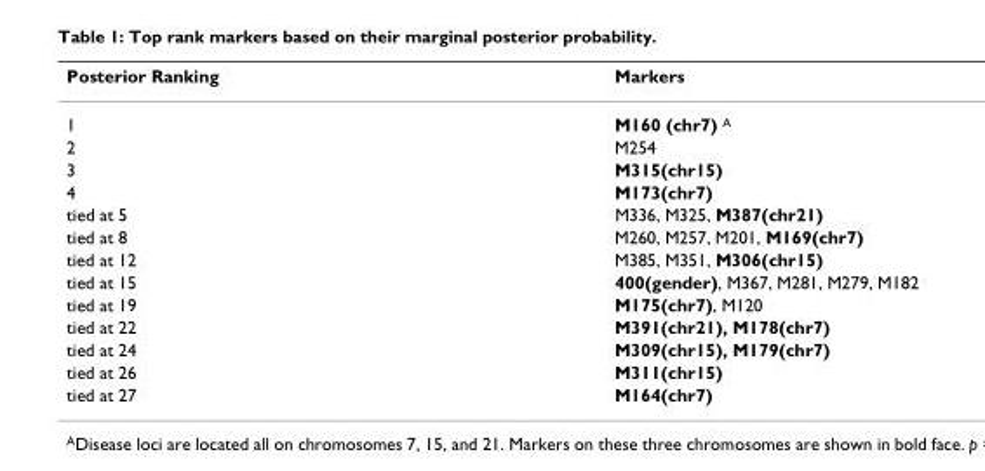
<table><thead><tr><td>Posterior Ranking</td><td>Markers</td></tr></thead><tbody><tr><td>1</td><td>M160 (chr7) A</td></tr><tr><td>2</td><td>M254</td></tr><tr><td>3</td><td>M315(chr15)</td></tr><tr><td>4</td><td>M173(chr7)</td></tr><tr><td>tied at 5</td><td>M336, M325, M387(chr21)</td></tr><tr><td>tied at 8</td><td>M260, M257, M201, M169(chr7)</td></tr><tr><td>tied at 12</td><td>M385, M351, M306(chr15)</td></tr><tr><td>tied at 15</td><td>400(gender), M367, M281, M279, M182</td></tr><tr><td>tied at 19</td><td>M175(chr7), M120</td></tr><tr><td>tied at 22</td><td>M391(chr21), M178(chr7)</td></tr><tr><td>tied at 24</td><td>M309(chr15), M179(chr7)</td></tr><tr><td>tied at 26</td><td>M311(chr15)</td></tr><tr><td>tied at 27</td><td>M164(chr7)</td></tr></tbody></table>